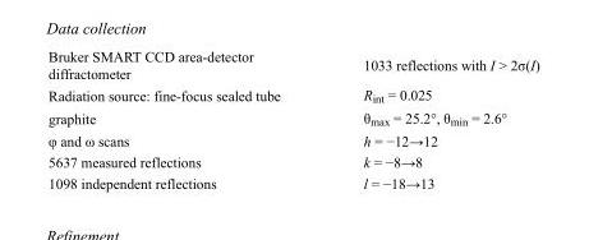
<table><tbody><tr><td>Bruker SMART CCD area-detector diffractometer</td><td>1033 reflections with I &gt; 2σ(I)</td></tr><tr><td>Radiation source: fine-focus sealed tube</td><td>R<sub>int</sub> = 0.025</td></tr><tr><td>graphite</td><td>θ<sub>max</sub> = 25.2°, θ<sub>min</sub> = 2.6°</td></tr><tr><td>φ and ω scans</td><td>h = −12→12</td></tr><tr><td>5637 measured reflections</td><td>k = −8→8</td></tr><tr><td>1098 independent reflections</td><td>l = −18→13</td></tr></tbody></table>